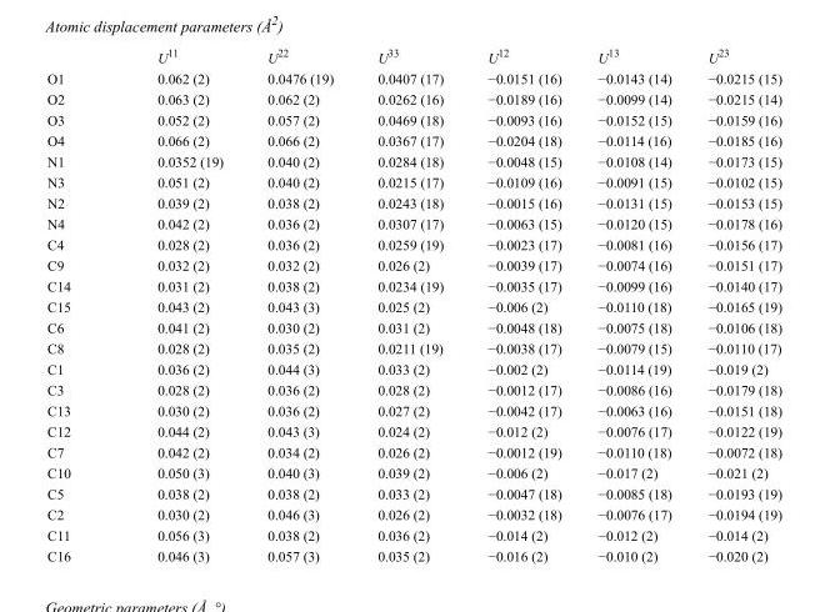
<table><thead><tr><td></td><td>U<sup>11</sup></td><td>U<sup>22</sup></td><td>U<sup>33</sup></td><td>U<sup>12</sup></td><td>U<sup>13</sup></td><td>U<sup>23</sup></td></tr></thead><tbody><tr><td>O1</td><td>0.062 (2)</td><td>0.0476 (19)</td><td>0.0407 (17)</td><td>−0.0151 (16)</td><td>−0.0143 (14)</td><td>−0.0215 (15)</td></tr><tr><td>O2</td><td>0.063 (2)</td><td>0.062 (2)</td><td>0.0262 (16)</td><td>−0.0189 (16)</td><td>−0.0099 (14)</td><td>−0.0215 (14)</td></tr><tr><td>O3</td><td>0.052 (2)</td><td>0.057 (2)</td><td>0.0469 (18)</td><td>−0.0093 (16)</td><td>−0.0152 (15)</td><td>−0.0159 (16)</td></tr><tr><td>O4</td><td>0.066 (2)</td><td>0.066 (2)</td><td>0.0367 (17)</td><td>−0.0204 (18)</td><td>−0.0114 (16)</td><td>−0.0185 (16)</td></tr><tr><td>N1</td><td>0.0352 (19)</td><td>0.040 (2)</td><td>0.0284 (18)</td><td>−0.0048 (15)</td><td>−0.0108 (14)</td><td>−0.0173 (15)</td></tr><tr><td>N3</td><td>0.051 (2)</td><td>0.040 (2)</td><td>0.0215 (17)</td><td>−0.0109 (16)</td><td>−0.0091 (15)</td><td>−0.0102 (15)</td></tr><tr><td>N2</td><td>0.039 (2)</td><td>0.038 (2)</td><td>0.0243 (18)</td><td>−0.0015 (16)</td><td>−0.0131 (15)</td><td>−0.0153 (15)</td></tr><tr><td>N4</td><td>0.042 (2)</td><td>0.036 (2)</td><td>0.0307 (17)</td><td>−0.0063 (15)</td><td>−0.0120 (15)</td><td>−0.0178 (16)</td></tr><tr><td>C4</td><td>0.028 (2)</td><td>0.036 (2)</td><td>0.0259 (19)</td><td>−0.0023 (17)</td><td>−0.0081 (16)</td><td>−0.0156 (17)</td></tr><tr><td>C9</td><td>0.032 (2)</td><td>0.032 (2)</td><td>0.026 (2)</td><td>−0.0039 (17)</td><td>−0.0074 (16)</td><td>−0.0151 (17)</td></tr><tr><td>C14</td><td>0.031 (2)</td><td>0.038 (2)</td><td>0.0234 (19)</td><td>−0.0035 (17)</td><td>−0.0099 (16)</td><td>−0.0140 (17)</td></tr><tr><td>C15</td><td>0.043 (2)</td><td>0.043 (3)</td><td>0.025 (2)</td><td>−0.006 (2)</td><td>−0.0110 (18)</td><td>−0.0165 (19)</td></tr><tr><td>C6</td><td>0.041 (2)</td><td>0.030 (2)</td><td>0.031 (2)</td><td>−0.0048 (18)</td><td>−0.0075 (18)</td><td>−0.0106 (18)</td></tr><tr><td>C8</td><td>0.028 (2)</td><td>0.035 (2)</td><td>0.0211 (19)</td><td>−0.0038 (17)</td><td>−0.0079 (15)</td><td>−0.0110 (17)</td></tr><tr><td>C1</td><td>0.036 (2)</td><td>0.044 (3)</td><td>0.033 (2)</td><td>−0.002 (2)</td><td>−0.0114 (19)</td><td>−0.019 (2)</td></tr><tr><td>C3</td><td>0.028 (2)</td><td>0.036 (2)</td><td>0.028 (2)</td><td>−0.0012 (17)</td><td>−0.0086 (16)</td><td>−0.0179 (18)</td></tr><tr><td>C13</td><td>0.030 (2)</td><td>0.036 (2)</td><td>0.027 (2)</td><td>−0.0042 (17)</td><td>−0.0063 (16)</td><td>−0.0151 (18)</td></tr><tr><td>C12</td><td>0.044 (2)</td><td>0.043 (3)</td><td>0.024 (2)</td><td>−0.012 (2)</td><td>−0.0076 (17)</td><td>−0.0122 (19)</td></tr><tr><td>C7</td><td>0.042 (2)</td><td>0.034 (2)</td><td>0.026 (2)</td><td>−0.0012 (19)</td><td>−0.0110 (18)</td><td>−0.0072 (18)</td></tr><tr><td>C10</td><td>0.050 (3)</td><td>0.040 (3)</td><td>0.039 (2)</td><td>−0.006 (2)</td><td>−0.017 (2)</td><td>−0.021 (2)</td></tr><tr><td>C5</td><td>0.038 (2)</td><td>0.038 (2)</td><td>0.033 (2)</td><td>−0.0047 (18)</td><td>−0.0085 (18)</td><td>−0.0193 (19)</td></tr><tr><td>C2</td><td>0.030 (2)</td><td>0.046 (3)</td><td>0.026 (2)</td><td>−0.0032 (18)</td><td>−0.0076 (17)</td><td>−0.0194 (19)</td></tr><tr><td>C11</td><td>0.056 (3)</td><td>0.038 (2)</td><td>0.036 (2)</td><td>−0.014 (2)</td><td>−0.012 (2)</td><td>−0.014 (2)</td></tr><tr><td>C16</td><td>0.046 (3)</td><td>0.057 (3)</td><td>0.035 (2)</td><td>−0.016 (2)</td><td>−0.010 (2)</td><td>−0.020 (2)</td></tr></tbody></table>